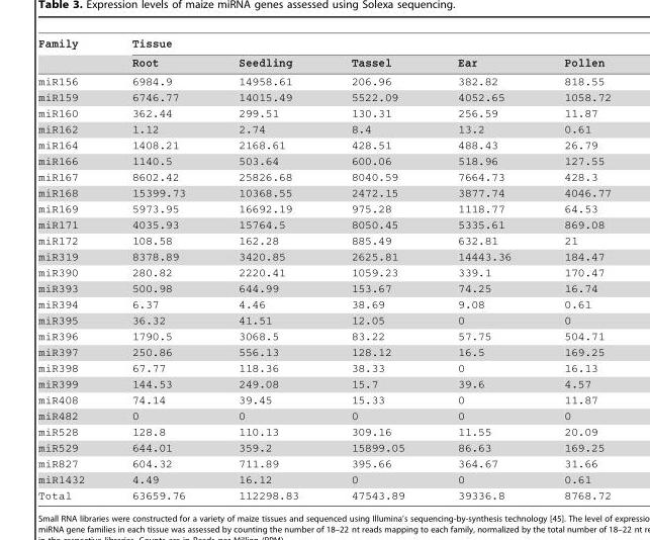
<table><thead><tr><td rowspan="2">Family</td><td colspan="5">Tissue</td></tr><tr><td>Root</td><td>Seedling</td><td>Tassel</td><td>Ear</td><td>Pollen</td></tr></thead><tbody><tr><td>miR156</td><td>6984.9</td><td>14958.61</td><td>206.96</td><td>382.82</td><td>818.55</td></tr><tr><td>miR159</td><td>6746.77</td><td>14015.49</td><td>5522.09</td><td>4052.65</td><td>1058.72</td></tr><tr><td>miR160</td><td>362.44</td><td>299.51</td><td>130.31</td><td>256.59</td><td>11.87</td></tr><tr><td>miR162</td><td>1.12</td><td>2.74</td><td>8.4</td><td>13.2</td><td>0.61</td></tr><tr><td>miR164</td><td>1408.21</td><td>2168.61</td><td>428.51</td><td>488.43</td><td>26.79</td></tr><tr><td>miR166</td><td>1140.5</td><td>503.64</td><td>600.06</td><td>518.96</td><td>127.55</td></tr><tr><td>miR167</td><td>8602.42</td><td>25826.68</td><td>8040.59</td><td>7664.73</td><td>428.3</td></tr><tr><td>miR168</td><td>15399.73</td><td>10368.55</td><td>2472.15</td><td>3877.74</td><td>4046.77</td></tr><tr><td>miR169</td><td>5973.95</td><td>16692.19</td><td>975.28</td><td>1118.77</td><td>64.53</td></tr><tr><td>miR171</td><td>4035.93</td><td>15764.5</td><td>8050.45</td><td>5335.61</td><td>869.08</td></tr><tr><td>miR172</td><td>108.58</td><td>162.28</td><td>885.49</td><td>632.81</td><td>21</td></tr><tr><td>miR319</td><td>8378.89</td><td>3420.85</td><td>2625.81</td><td>14443.36</td><td>184.47</td></tr><tr><td>miR390</td><td>280.82</td><td>2220.41</td><td>1059.23</td><td>339.1</td><td>170.47</td></tr><tr><td>miR393</td><td>500.98</td><td>644.99</td><td>153.67</td><td>74.25</td><td>16.74</td></tr><tr><td>miR394</td><td>6.37</td><td>4.46</td><td>38.69</td><td>9.08</td><td>0.61</td></tr><tr><td>miR395</td><td>36.32</td><td>41.51</td><td>12.05</td><td>0</td><td>0</td></tr><tr><td>miR396</td><td>1790.5</td><td>3068.5</td><td>83.22</td><td>57.75</td><td>504.71</td></tr><tr><td>miR397</td><td>250.86</td><td>556.13</td><td>128.12</td><td>16.5</td><td>169.25</td></tr><tr><td>miR398</td><td>67.77</td><td>118.36</td><td>38.33</td><td>0</td><td>16.13</td></tr><tr><td>miR399</td><td>144.53</td><td>249.08</td><td>15.7</td><td>39.6</td><td>4.57</td></tr><tr><td>miR408</td><td>74.14</td><td>39.45</td><td>15.33</td><td>0</td><td>11.87</td></tr><tr><td>miR482</td><td>0</td><td>0</td><td>0</td><td>0</td><td>0</td></tr><tr><td>miR528</td><td>128.8</td><td>110.13</td><td>309.16</td><td>11.55</td><td>20.09</td></tr><tr><td>miR529</td><td>644.01</td><td>359.2</td><td>15899.05</td><td>86.63</td><td>169.25</td></tr><tr><td>miR827</td><td>604.32</td><td>711.89</td><td>395.66</td><td>364.67</td><td>31.66</td></tr><tr><td>miR1432</td><td>4.49</td><td>16.12</td><td>0</td><td>0</td><td>0.61</td></tr><tr><td>Total</td><td>63659.76</td><td>112298.83</td><td>47543.89</td><td>39336.8</td><td>8768.72</td></tr></tbody></table>